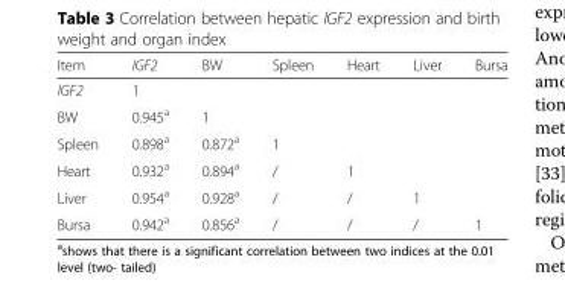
<table><thead><tr><td>Item</td><td>IGF2</td><td>BW</td><td>Spleen</td><td>Heart</td><td>Liver</td><td>Bursa</td></tr></thead><tbody><tr><td>IGF2</td><td>1</td><td></td><td></td><td></td><td></td><td></td></tr><tr><td>BW</td><td>0.945<sup>a</sup></td><td>1</td><td></td><td></td><td></td><td></td></tr><tr><td>Spleen</td><td>0.898<sup>a</sup></td><td>0.872<sup>a</sup></td><td>1</td><td></td><td></td><td></td></tr><tr><td>Heart</td><td>0.932<sup>a</sup></td><td>0.894<sup>a</sup></td><td>/</td><td>1</td><td></td><td></td></tr><tr><td>Liver</td><td>0.954<sup>a</sup></td><td>0.928<sup>a</sup></td><td>/</td><td>/</td><td>1</td><td></td></tr><tr><td>Bursa</td><td>0.942<sup>a</sup></td><td>0.856<sup>a</sup></td><td>/</td><td>/</td><td>/</td><td>1</td></tr></tbody></table>